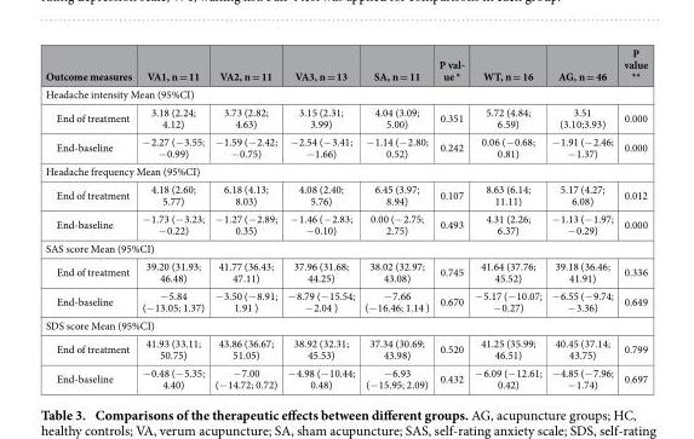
<table><thead><tr><td>Outcome measures</td><td>VA1, n = 11</td><td>VA2, n = 11</td><td>VA3, n = 13</td><td>SA, n = 11</td><td>P val- ue *</td><td>WT, n = 16</td><td>AG, n = 46</td><td>P value **</td></tr></thead><tbody><tr><td colspan="9">Headache intensity Mean (95%CI)</td></tr><tr><td>End of treatment</td><td>3.18 (2.24; 4.12)</td><td>3.73 (2.82; 4.63)</td><td>3.15 (2.31; 3.99)</td><td>4.04 (3.09; 5.00)</td><td>0.351</td><td>5.72 (4.84; 6.59)</td><td>3.51 (3.10;3.93)</td><td>0.000</td></tr><tr><td>End-baseline</td><td>− 2.27 (− 3.55; − 0.99)</td><td>− 1.59 (− 2.42; − 0.75)</td><td>− 2.54 (− 3.41; − 1.66)</td><td>− 1.14 (− 2.80; 0.52)</td><td>0.242</td><td>0.06 (− 0.68; 0.81)</td><td>− 1.91 (− 2.46; − 1.37)</td><td>0.000</td></tr><tr><td colspan="9">Headache frequency Mean (95%CI)</td></tr><tr><td>End of treatment</td><td>4.18 (2.60; 5.77)</td><td>6.18 (4.13; 8.03)</td><td>4.08 (2.40; 5.76)</td><td>6.45 (3.97; 8.94)</td><td>0.107</td><td>8.63 (6.14; 11.11)</td><td>5.17 (4.27; 6.08)</td><td>0.012</td></tr><tr><td>End-baseline</td><td>− 1.73 (− 3.23; − 0.22)</td><td>− 1.27 (− 2.89; 0.35)</td><td>− 1.46 (− 2.83; − 0.10)</td><td>0.00 (− 2.75; 2.75)</td><td>0.493</td><td>4.31 (2.26; 6.37)</td><td>− 1.13 (− 1.97; − 0.29)</td><td>0.000</td></tr><tr><td colspan="9">SAS score Mean (95%CI)</td></tr><tr><td>End of treatment</td><td>39.20 (31.93; 46.48)</td><td>41.77 (36.43; 47.11)</td><td>37.96 (31.68; 44.25)</td><td>38.02 (32.97; 43.08)</td><td>0.745</td><td>41.64 (37.76; 45.52)</td><td>39.18 (36.46; 41.91)</td><td>0.336</td></tr><tr><td>End-baseline</td><td>− 5.84 (− 13.05; 1.37)</td><td>− 3.50 (− 8.91; 1.91 )</td><td>− 8.79 (− 15.54; − 2.04 )</td><td>− 7.66 (− 16.46; 1.14 )</td><td>0.670</td><td>− 5.17 (− 10.07; − 0.27)</td><td>− 6.55 (− 9.74; − 3.36)</td><td>0.649</td></tr><tr><td colspan="9">SDS score Mean (95%CI)</td></tr><tr><td>End of treatment</td><td>41.93 (33.11; 50.75)</td><td>43.86 (36.67; 51.05)</td><td>38.92 (32.31; 45.53)</td><td>37.34 (30.69; 43.98)</td><td>0.520</td><td>41.25 (35.99; 46.51)</td><td>40.45 (37.14; 43.75)</td><td>0.799</td></tr><tr><td>End-baseline</td><td>− 0.48 (− 5.35; 4.40)</td><td>− 7.00 (− 14.72; 0.72)</td><td>− 4.98 (− 10.44; 0.48)</td><td>− 6.93 (− 15.95; 2.09)</td><td>0.432</td><td>− 6.09 (− 12.61; 0.42)</td><td>− 4.85 (− 7.96; − 1.74)</td><td>0.697</td></tr></tbody></table>